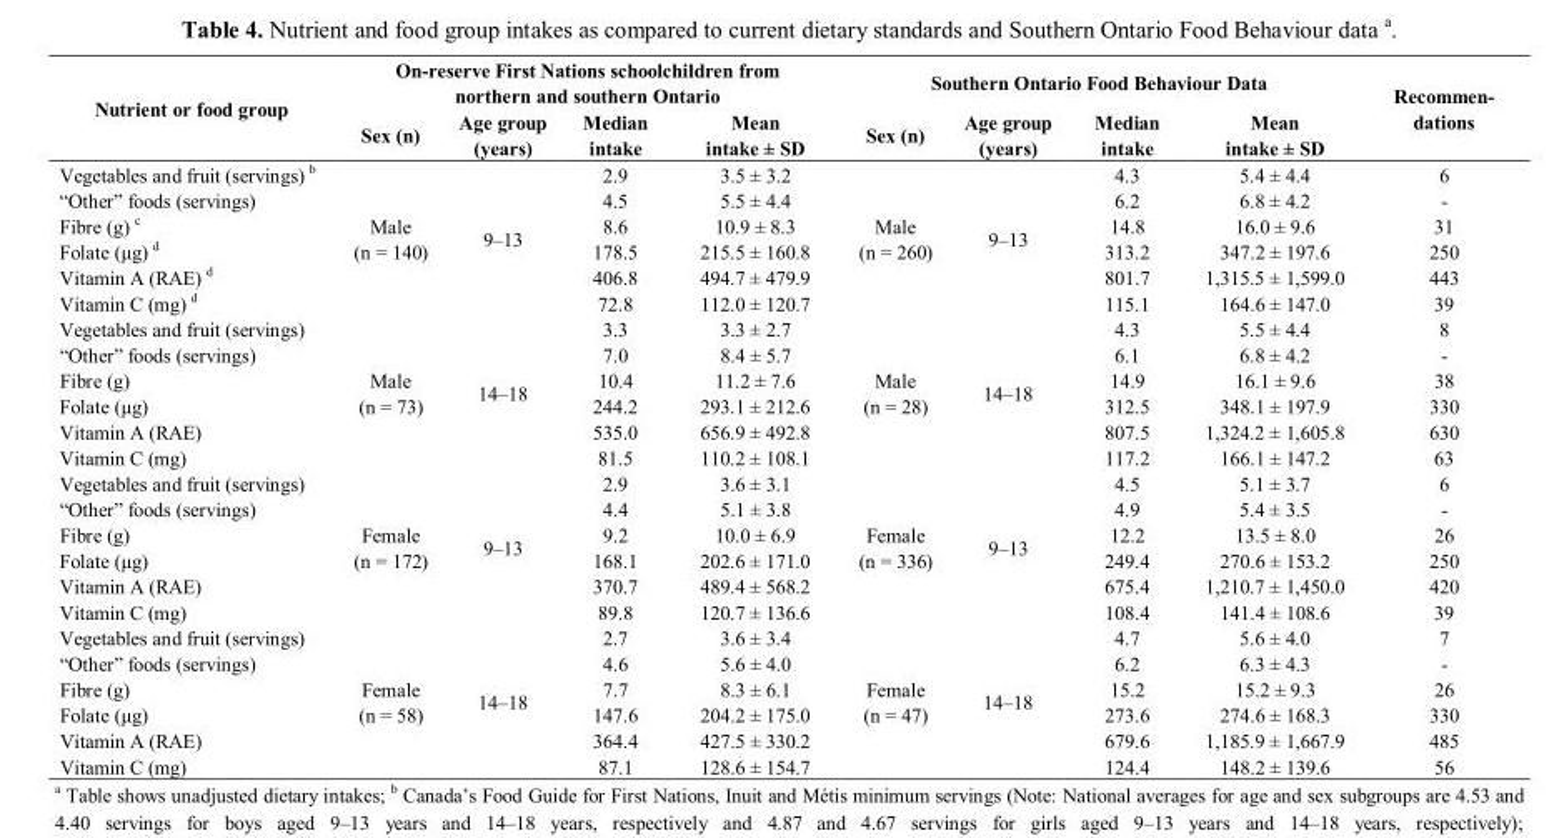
<table><thead><tr><td rowspan="2">Nutrient or food group</td><td colspan="4">On-reserve First Nations schoolchildren from northern and southern Ontario</td><td colspan="4">Southern Ontario Food Behaviour Data</td><td rowspan="2">Recommen- dations</td></tr><tr><td>Sex (n)</td><td>Age group (years)</td><td>Median intake</td><td>Mean intake ± SD</td><td>Sex (n)</td><td>Age group (years)</td><td>Median intake</td><td>Mean intake ± SD</td></tr></thead><tbody><tr><td>Vegetables and fruit (servings) <sup>b</sup></td><td rowspan="6">Male (n = 140)</td><td rowspan="6">9–13</td><td>2.9</td><td>3.5 ± 3.2</td><td rowspan="6">Male (n = 260)</td><td rowspan="6">9–13</td><td>4.3</td><td>5.4 ± 4.4</td><td>6</td></tr><tr><td>“Other” foods (servings)</td><td>4.5</td><td>5.5 ± 4.4</td><td>6.2</td><td>6.8 ± 4.2</td><td>-</td></tr><tr><td>Fibre (g) <sup>c</sup></td><td>8.6</td><td>10.9 ± 8.3</td><td>14.8</td><td>16.0 ± 9.6</td><td>31</td></tr><tr><td>Folate (μg) <sup>d</sup></td><td>178.5</td><td>215.5 ± 160.8</td><td>313.2</td><td>347.2 ± 197.6</td><td>250</td></tr><tr><td>Vitamin A (RAE) <sup>d</sup></td><td>406.8</td><td>494.7 ± 479.9</td><td>801.7</td><td>1,315.5 ± 1,599.0</td><td>443</td></tr><tr><td>Vitamin C (mg) <sup>d</sup></td><td>72.8</td><td>112.0 ± 120.7</td><td>115.1</td><td>164.6 ± 147.0</td><td>39</td></tr><tr><td>Vegetables and fruit (servings)</td><td rowspan="6">Male (n = 73)</td><td rowspan="6">14–18</td><td>3.3</td><td>3.3 ± 2.7</td><td rowspan="6">Male (n = 28)</td><td rowspan="6">14–18</td><td>4.3</td><td>5.5 ± 4.4</td><td>8</td></tr><tr><td>“Other” foods (servings)</td><td>7.0</td><td>8.4 ± 5.7</td><td>6.1</td><td>6.8 ± 4.2</td><td>-</td></tr><tr><td>Fibre (g)</td><td>10.4</td><td>11.2 ± 7.6</td><td>14.9</td><td>16.1 ± 9.6</td><td>38</td></tr><tr><td>Folate (μg)</td><td>244.2</td><td>293.1 ± 212.6</td><td>312.5</td><td>348.1 ± 197.9</td><td>330</td></tr><tr><td>Vitamin A (RAE)</td><td>535.0</td><td>656.9 ± 492.8</td><td>807.5</td><td>1,324.2 ± 1,605.8</td><td>630</td></tr><tr><td>Vitamin C (mg)</td><td>81.5</td><td>110.2 ± 108.1</td><td>117.2</td><td>166.1 ± 147.2</td><td>63</td></tr><tr><td>Vegetables and fruit (servings)</td><td rowspan="6">Female (n = 172)</td><td rowspan="6">9–13</td><td>2.9</td><td>3.6 ± 3.1</td><td rowspan="6">Female (n = 336)</td><td rowspan="6">9–13</td><td>4.5</td><td>5.1 ± 3.7</td><td>6</td></tr><tr><td>“Other” foods (servings)</td><td>4.4</td><td>5.1 ± 3.8</td><td>4.9</td><td>5.4 ± 3.5</td><td>-</td></tr><tr><td>Fibre (g)</td><td>9.2</td><td>10.0 ± 6.9</td><td>12.2</td><td>13.5 ± 8.0</td><td>26</td></tr><tr><td>Folate (μg)</td><td>168.1</td><td>202.6 ± 171.0</td><td>249.4</td><td>270.6 ± 153.2</td><td>250</td></tr><tr><td>Vitamin A (RAE)</td><td>370.7</td><td>489.4 ± 568.2</td><td>675.4</td><td>1,210.7 ± 1,450.0</td><td>420</td></tr><tr><td>Vitamin C (mg)</td><td>89.8</td><td>120.7 ± 136.6</td><td>108.4</td><td>141.4 ± 108.6</td><td>39</td></tr><tr><td>Vegetables and fruit (servings)</td><td rowspan="6">Female (n = 58)</td><td rowspan="6">14–18</td><td>2.7</td><td>3.6 ± 3.4</td><td rowspan="6">Female (n = 47)</td><td rowspan="6">14–18</td><td>4.7</td><td>5.6 ± 4.0</td><td>7</td></tr><tr><td>“Other” foods (servings)</td><td>4.6</td><td>5.6 ± 4.0</td><td>6.2</td><td>6.3 ± 4.3</td><td>-</td></tr><tr><td>Fibre (g)</td><td>7.7</td><td>8.3 ± 6.1</td><td>15.2</td><td>15.2 ± 9.3</td><td>26</td></tr><tr><td>Folate (μg)</td><td>147.6</td><td>204.2 ± 175.0</td><td>273.6</td><td>274.6 ± 168.3</td><td>330</td></tr><tr><td>Vitamin A (RAE)</td><td>364.4</td><td>427.5 ± 330.2</td><td>679.6</td><td>1,185.9 ± 1,667.9</td><td>485</td></tr><tr><td>Vitamin C (mg)</td><td>87.1</td><td>128.6 ± 154.7</td><td>124.4</td><td>148.2 ± 139.6</td><td>56</td></tr></tbody></table>